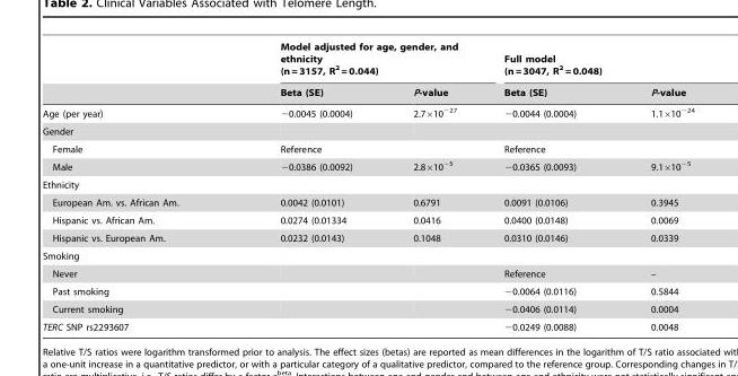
<table><thead><tr><td rowspan="2"></td><td colspan="2">Model adjusted for age, gender, and ethnicity (n = 3157, R<sup>2</sup> = 0.044)</td><td colspan="2">Full model (n = 3047, R<sup>2</sup> = 0.048)</td></tr><tr><td>Beta (SE)</td><td>P-value</td><td>Beta (SE)</td><td>P-value</td></tr></thead><tbody><tr><td>Age (per year)</td><td>−0.0045 (0.0004)</td><td>2.7×10<sup>−27</sup></td><td>−0.0044 (0.0004)</td><td>1.1×10<sup>−24</sup></td></tr><tr><td colspan="5">Gender</td></tr><tr><td>Female</td><td>Reference</td><td></td><td>Reference</td><td></td></tr><tr><td>Male</td><td>−0.0386 (0.0092)</td><td>2.8×10<sup>−5</sup></td><td>−0.0365 (0.0093)</td><td>9.1×10<sup>−5</sup></td></tr><tr><td colspan="5">Ethnicity</td></tr><tr><td>European Am. vs. African Am.</td><td>0.0042 (0.0101)</td><td>0.6791</td><td>0.0091 (0.0106)</td><td>0.3945</td></tr><tr><td>Hispanic vs. African Am.</td><td>0.0274 (0.01334</td><td>0.0416</td><td>0.0400 (0.0148)</td><td>0.0069</td></tr><tr><td>Hispanic vs. European Am.</td><td>0.0232 (0.0143)</td><td>0.1048</td><td>0.0310 (0.0146)</td><td>0.0339</td></tr><tr><td colspan="5">Smoking</td></tr><tr><td>Never</td><td></td><td></td><td>Reference</td><td>–</td></tr><tr><td>Past smoking</td><td></td><td></td><td>−0.0064 (0.0116)</td><td>0.5844</td></tr><tr><td>Current smoking</td><td></td><td></td><td>−0.0406 (0.0114)</td><td>0.0004</td></tr><tr><td>TERC SNP rs2293607</td><td></td><td></td><td>−0.0249 (0.0088)</td><td>0.0048</td></tr></tbody></table>